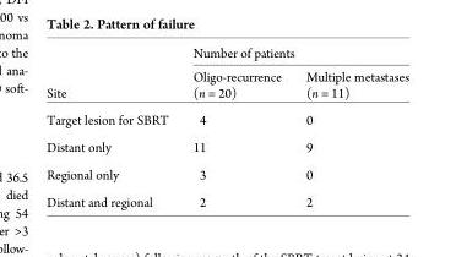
<table><thead><tr><td rowspan="3">Site</td><td colspan="2">Number of patients</td></tr><tr><td rowspan="2">Oligo-recurrence (n = 20)</td><td rowspan="2">Multiple metastases (n = 11)</td></tr><tr></tr></thead><tbody><tr><td>Target lesion for SBRT</td><td>4</td><td>0</td></tr><tr><td>Distant only</td><td>11</td><td>9</td></tr><tr><td>Regional only</td><td>3</td><td>0</td></tr><tr><td>Distant and regional</td><td>2</td><td>2</td></tr></tbody></table>